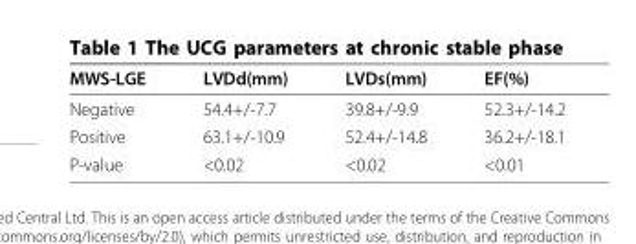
<table><thead><tr><td>MWS-LGE</td><td>LVDd(mm)</td><td>LVDs(mm)</td><td>EF(%)</td></tr></thead><tbody><tr><td>Negative</td><td>54.4+/-7.7</td><td>39.8+/-9.9</td><td>52.3+/-14.2</td></tr><tr><td>Positive</td><td>63.1+/-10.9</td><td>52.4+/-14.8</td><td>36.2+/-18.1</td></tr><tr><td>P-value</td><td>&lt;0.02</td><td>&lt;0.02</td><td>&lt;0.01</td></tr></tbody></table>